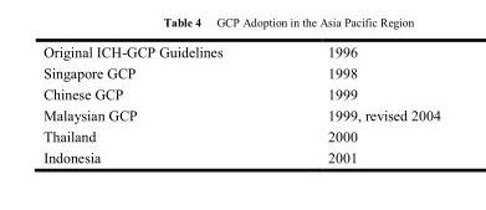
<table><tbody><tr><td>Original ICH-GCP Guidelines</td><td>1996</td></tr><tr><td>Singapore GCP</td><td>1998</td></tr><tr><td>Chinese GCP</td><td>1999</td></tr><tr><td>Malaysian GCP</td><td>1999, revised 2004</td></tr><tr><td>Thailand</td><td>2000</td></tr><tr><td>Indonesia</td><td>2001</td></tr></tbody></table>